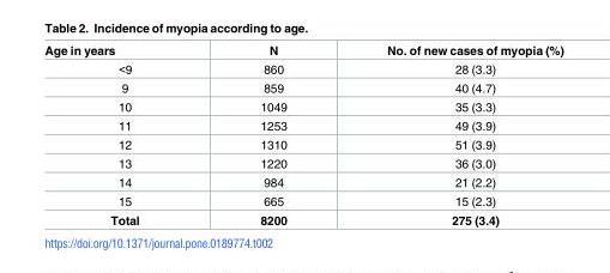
<table><thead><tr><td>Age in years</td><td>N</td><td>No. of new cases of myopia (%)</td></tr></thead><tbody><tr><td>&lt;9</td><td>860</td><td>28 (3.3)</td></tr><tr><td>9</td><td>859</td><td>40 (4.7)</td></tr><tr><td>10</td><td>1049</td><td>35 (3.3)</td></tr><tr><td>11</td><td>1253</td><td>49 (3.9)</td></tr><tr><td>12</td><td>1310</td><td>51 (3.9)</td></tr><tr><td>13</td><td>1220</td><td>36 (3.0)</td></tr><tr><td>14</td><td>984</td><td>21 (2.2)</td></tr><tr><td>15</td><td>665</td><td>15 (2.3)</td></tr><tr><td>Total</td><td>8200</td><td>275 (3.4)</td></tr></tbody></table>